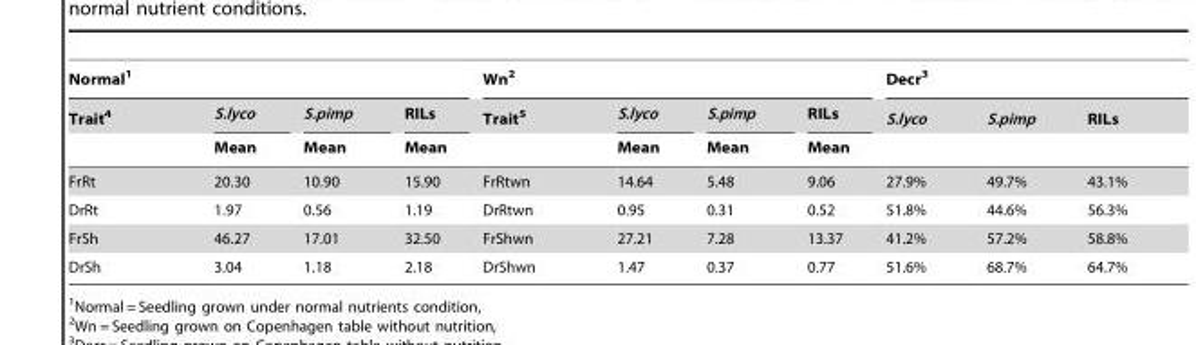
<table><thead><tr><td colspan="4">Normal<sup>1</sup></td><td colspan="4">Wn<sup>2</sup></td><td colspan="3">Decr<sup>3</sup></td></tr><tr><td rowspan="2">Trait<sup>4</sup></td><td rowspan="2">S.lyco Mean</td><td rowspan="2">S.pimp Mean</td><td rowspan="2">RILs Mean</td><td rowspan="2">Trait<sup>5</sup></td><td rowspan="2">S.lyco Mean</td><td rowspan="2">S.pimp Mean</td><td rowspan="2">RILs Mean</td><td rowspan="2">S.lyco</td><td rowspan="2">S.pimp</td><td rowspan="2">RILs</td></tr><tr></tr></thead><tbody><tr><td>FrRt</td><td>20.30</td><td>10.90</td><td>15.90</td><td>FrRtwn</td><td>14.64</td><td>5.48</td><td>9.06</td><td>27.9%</td><td>49.7%</td><td>43.1%</td></tr><tr><td>DrRt</td><td>1.97</td><td>0.56</td><td>1.19</td><td>DrRtwn</td><td>0.95</td><td>0.31</td><td>0.52</td><td>51.8%</td><td>44.6%</td><td>56.3%</td></tr><tr><td>FrSh</td><td>46.27</td><td>17.01</td><td>32.50</td><td>FrShwn</td><td>27.21</td><td>7.28</td><td>13.37</td><td>41.2%</td><td>57.2%</td><td>58.8%</td></tr><tr><td>DrSh</td><td>3.04</td><td>1.18</td><td>2.18</td><td>DrShwn</td><td>1.47</td><td>0.37</td><td>0.77</td><td>51.6%</td><td>68.7%</td><td>64.7%</td></tr></tbody></table>